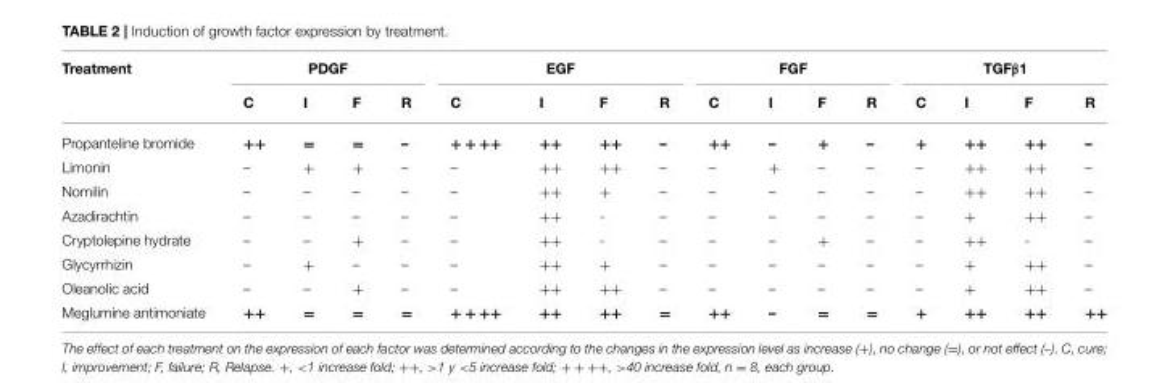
<table><thead><tr><td rowspan="2">Treatment</td><td colspan="4">PDGF</td><td colspan="4">EGF</td><td colspan="4">FGF</td><td colspan="4">TGFβ1</td></tr><tr><td>C</td><td>I</td><td>F</td><td>R</td><td>C</td><td>I</td><td>F</td><td>R</td><td>C</td><td>I</td><td>F</td><td>R</td><td>C</td><td>I</td><td>F</td><td>R</td></tr></thead><tbody><tr><td>Propanteline bromide</td><td>++</td><td>=</td><td>=</td><td>–</td><td>+ + ++</td><td>++</td><td>++</td><td>–</td><td>++</td><td>–</td><td>+</td><td>–</td><td>+</td><td>++</td><td>++</td><td>–</td></tr><tr><td>Limonin</td><td>–</td><td>+</td><td>+</td><td>–</td><td>–</td><td>++</td><td>++</td><td>–</td><td>–</td><td>+</td><td>–</td><td>–</td><td>–</td><td>++</td><td>++</td><td>–</td></tr><tr><td>Nomilin</td><td>–</td><td>–</td><td>–</td><td>–</td><td>–</td><td>++</td><td>+</td><td>–</td><td>–</td><td>–</td><td>–</td><td>–</td><td>–</td><td>++</td><td>++</td><td>–</td></tr><tr><td>Azadirachtin</td><td>–</td><td>–</td><td>–</td><td>–</td><td>–</td><td>++</td><td>-</td><td>–</td><td>–</td><td>–</td><td>–</td><td>–</td><td>–</td><td>+</td><td>++</td><td>–</td></tr><tr><td>Cryptolepine hydrate</td><td>–</td><td>–</td><td>+</td><td>–</td><td>–</td><td>++</td><td>-</td><td>–</td><td>–</td><td>–</td><td>+</td><td>–</td><td>–</td><td>++</td><td>-</td><td>–</td></tr><tr><td>Glycyrrhizin</td><td>–</td><td>+</td><td>–</td><td>–</td><td>–</td><td>++</td><td>+</td><td>–</td><td>–</td><td>–</td><td>–</td><td>–</td><td>–</td><td>+</td><td>++</td><td>–</td></tr><tr><td>Oleanolic acid</td><td>–</td><td>–</td><td>+</td><td>–</td><td>–</td><td>++</td><td>++</td><td>–</td><td>–</td><td>–</td><td>–</td><td>–</td><td>–</td><td>+</td><td>++</td><td>–</td></tr><tr><td>Meglumine antimoniate</td><td>++</td><td>=</td><td>=</td><td>=</td><td>+ + ++</td><td>++</td><td>++</td><td>=</td><td>++</td><td>–</td><td>=</td><td>=</td><td>+</td><td>++</td><td>++</td><td>++</td></tr></tbody></table>